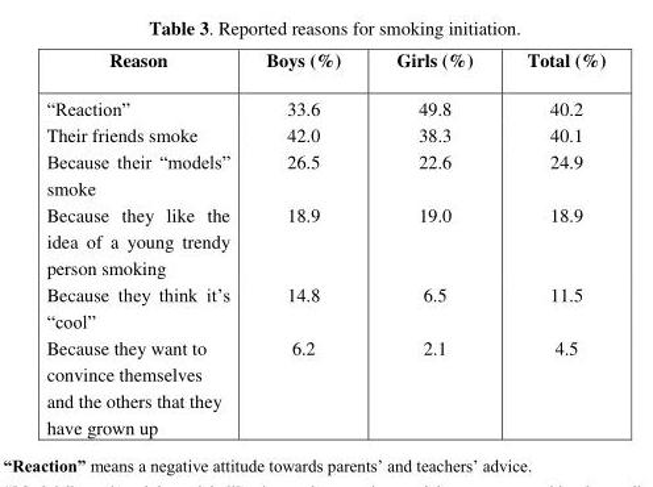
<table><thead><tr><td>Reason</td><td>Boys (%)</td><td>Girls (%)</td><td>Total (%)</td></tr></thead><tbody><tr><td>―Reaction‖</td><td>33.6</td><td>49.8</td><td>40.2</td></tr><tr><td>Their friends smoke</td><td>42.0</td><td>38.3</td><td>40.1</td></tr><tr><td>Because their ―models‖ smoke</td><td>26.5</td><td>22.6</td><td>24.9</td></tr><tr><td>Because they like the idea of a young trendy person smoking</td><td>18.9</td><td>19.0</td><td>18.9</td></tr><tr><td>Because they think it’s ―cool‖</td><td>14.8</td><td>6.5</td><td>11.5</td></tr><tr><td>Because they want to convince themselves and the others that they have grown up</td><td>6.2</td><td>2.1</td><td>4.5</td></tr></tbody></table>